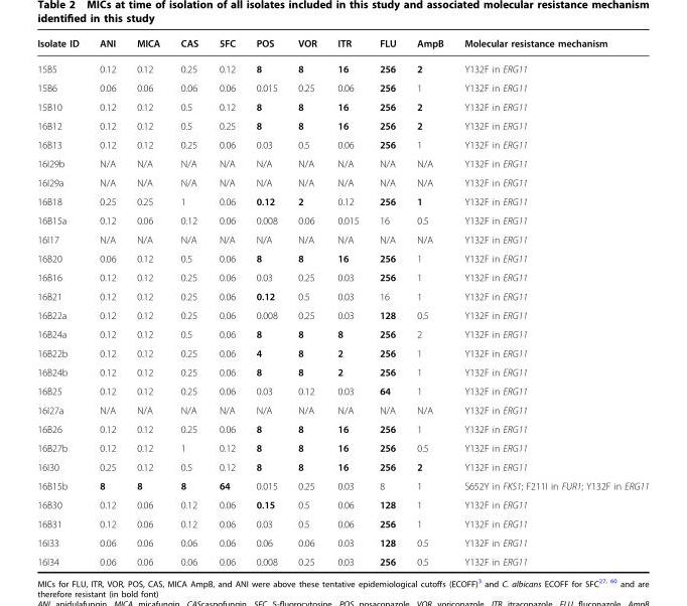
<table><thead><tr><td>Isolate ID</td><td>ANI</td><td>MICA</td><td>CAS</td><td>5FC</td><td>POS</td><td>VOR</td><td>ITR</td><td>FLU</td><td>AmpB</td><td>Molecular resistance mechanism</td></tr></thead><tbody><tr><td>15B5</td><td>0.12</td><td>0.12</td><td>0.25</td><td>0.12</td><td>8</td><td>8</td><td>16</td><td>256</td><td>2</td><td>Y132F in ERG11</td></tr><tr><td>15B6</td><td>0.06</td><td>0.06</td><td>0.06</td><td>0.06</td><td>0.015</td><td>0.25</td><td>0.06</td><td>256</td><td>1</td><td>Y132F in ERG11</td></tr><tr><td>15B10</td><td>0.12</td><td>0.12</td><td>0.5</td><td>0.12</td><td>8</td><td>8</td><td>16</td><td>256</td><td>2</td><td>Y132F in ERG11</td></tr><tr><td>16B12</td><td>0.12</td><td>0.12</td><td>0.5</td><td>0.25</td><td>8</td><td>8</td><td>16</td><td>256</td><td>2</td><td>Y132F in ERG11</td></tr><tr><td>16B13</td><td>0.12</td><td>0.12</td><td>0.25</td><td>0.06</td><td>0.03</td><td>0.5</td><td>0.06</td><td>256</td><td>1</td><td>Y132F in ERG11</td></tr><tr><td>16I29b</td><td>N/A</td><td>N/A</td><td>N/A</td><td>N/A</td><td>N/A</td><td>N/A</td><td>N/A</td><td>N/A</td><td>N/A</td><td>Y132F in ERG11</td></tr><tr><td>16I29a</td><td>N/A</td><td>N/A</td><td>N/A</td><td>N/A</td><td>N/A</td><td>N/A</td><td>N/A</td><td>N/A</td><td>N/A</td><td>Y132F in ERG11</td></tr><tr><td>16B18</td><td>0.25</td><td>0.25</td><td>1</td><td>0.06</td><td>0.12</td><td>2</td><td>0.12</td><td>256</td><td>1</td><td>Y132F in ERG11</td></tr><tr><td>16B15a</td><td>0.12</td><td>0.06</td><td>0.12</td><td>0.06</td><td>0.008</td><td>0.06</td><td>0.015</td><td>16</td><td>0.5</td><td>Y132F in ERG11</td></tr><tr><td>16I17</td><td>N/A</td><td>N/A</td><td>N/A</td><td>N/A</td><td>N/A</td><td>N/A</td><td>N/A</td><td>N/A</td><td>N/A</td><td>Y132F in ERG11</td></tr><tr><td>16B20</td><td>0.06</td><td>0.12</td><td>0.5</td><td>0.06</td><td>8</td><td>8</td><td>16</td><td>256</td><td>1</td><td>Y132F in ERG11</td></tr><tr><td>16B16</td><td>0.12</td><td>0.12</td><td>0.25</td><td>0.06</td><td>0.03</td><td>0.25</td><td>0.03</td><td>256</td><td>1</td><td>Y132F in ERG11</td></tr><tr><td>16B21</td><td>0.12</td><td>0.12</td><td>0.25</td><td>0.06</td><td>0.12</td><td>0.5</td><td>0.03</td><td>16</td><td>1</td><td>Y132F in ERG11</td></tr><tr><td>16B22a</td><td>0.12</td><td>0.12</td><td>0.25</td><td>0.06</td><td>0.008</td><td>0.25</td><td>0.03</td><td>128</td><td>0.5</td><td>Y132F in ERG11</td></tr><tr><td>16B24a</td><td>0.12</td><td>0.12</td><td>0.5</td><td>0.06</td><td>8</td><td>8</td><td>8</td><td>256</td><td>2</td><td>Y132F in ERG11</td></tr><tr><td>16B22b</td><td>0.12</td><td>0.12</td><td>0.25</td><td>0.06</td><td>4</td><td>8</td><td>2</td><td>256</td><td>1</td><td>Y132F in ERG11</td></tr><tr><td>16B24b</td><td>0.12</td><td>0.12</td><td>0.25</td><td>0.06</td><td>8</td><td>8</td><td>2</td><td>256</td><td>1</td><td>Y132F in ERG11</td></tr><tr><td>16B25</td><td>0.12</td><td>0.12</td><td>0.25</td><td>0.06</td><td>0.03</td><td>0.12</td><td>0.03</td><td>64</td><td>1</td><td>Y132F in ERG11</td></tr><tr><td>16I27a</td><td>N/A</td><td>N/A</td><td>N/A</td><td>N/A</td><td>N/A</td><td>N/A</td><td>N/A</td><td>N/A</td><td>N/A</td><td>Y132F in ERG11</td></tr><tr><td>16B26</td><td>0.12</td><td>0.12</td><td>0.25</td><td>0.06</td><td>8</td><td>8</td><td>16</td><td>256</td><td>1</td><td>Y132F in ERG11</td></tr><tr><td>16B27b</td><td>0.12</td><td>0.12</td><td>1</td><td>0.12</td><td>8</td><td>8</td><td>16</td><td>256</td><td>0.5</td><td>Y132F in ERG11</td></tr><tr><td>16I30</td><td>0.25</td><td>0.12</td><td>0.5</td><td>0.12</td><td>8</td><td>8</td><td>16</td><td>256</td><td>2</td><td>Y132F in ERG11</td></tr><tr><td>16B15b</td><td>8</td><td>8</td><td>8</td><td>64</td><td>0.015</td><td>0.25</td><td>0.03</td><td>8</td><td>1</td><td>S652Y in FKS1; F211I in FUR1; Y132F in ERG11</td></tr><tr><td>16B30</td><td>0.12</td><td>0.06</td><td>0.12</td><td>0.06</td><td>0.15</td><td>0.5</td><td>0.06</td><td>128</td><td>1</td><td>Y132F in ERG11</td></tr><tr><td>16B31</td><td>0.12</td><td>0.06</td><td>0.12</td><td>0.06</td><td>0.03</td><td>0.5</td><td>0.06</td><td>256</td><td>1</td><td>Y132F in ERG11</td></tr><tr><td>16I33</td><td>0.06</td><td>0.06</td><td>0.06</td><td>0.06</td><td>0.06</td><td>0.06</td><td>0.03</td><td>128</td><td>0.5</td><td>Y132F in ERG11</td></tr><tr><td>16I34</td><td>0.06</td><td>0.06</td><td>0.06</td><td>0.06</td><td>0.008</td><td>0.25</td><td>0.03</td><td>256</td><td>0.5</td><td>Y132F in ERG11</td></tr></tbody></table>